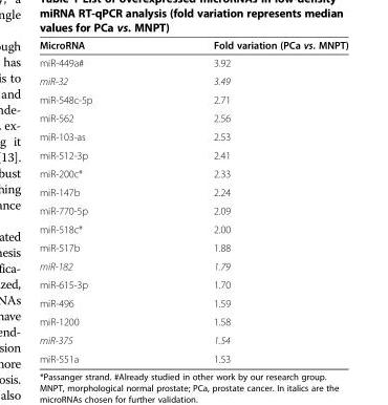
<table><thead><tr><td>MicroRNA</td><td>Fold variation (PCa vs. MNPT)</td></tr></thead><tbody><tr><td>miR-449a#</td><td>3.92</td></tr><tr><td>miR-32</td><td>3.49</td></tr><tr><td>miR-548c-5p</td><td>2.71</td></tr><tr><td>miR-562</td><td>2.56</td></tr><tr><td>miR-103-as</td><td>2.53</td></tr><tr><td>miR-512-3p</td><td>2.41</td></tr><tr><td>miR-200c*</td><td>2.33</td></tr><tr><td>miR-147b</td><td>2.24</td></tr><tr><td>miR-770-5p</td><td>2.09</td></tr><tr><td>miR-518c*</td><td>2.00</td></tr><tr><td>miR-517b</td><td>1.88</td></tr><tr><td>miR-182</td><td>1.79</td></tr><tr><td>miR-615-3p</td><td>1.70</td></tr><tr><td>miR-496</td><td>1.59</td></tr><tr><td>miR-1200</td><td>1.58</td></tr><tr><td>miR-375</td><td>1.54</td></tr><tr><td>miR-551a</td><td>1.53</td></tr></tbody></table>